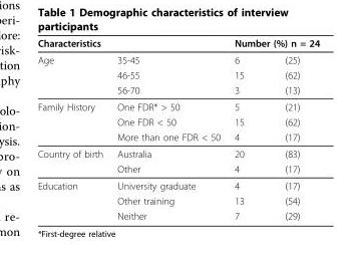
<table><thead><tr><td colspan="2">Characteristics</td><td colspan="2">Number (%) n = 24</td></tr><tr><td>Age</td><td>35-45</td><td>6</td><td>(25)</td></tr></thead><tbody><tr><td></td><td>46-55</td><td>15</td><td>(62)</td></tr><tr><td></td><td>56-70</td><td>3</td><td>(13)</td></tr><tr><td rowspan="3">Family History</td><td>One FDR* &gt; 50</td><td>5</td><td>(21)</td></tr><tr><td>One FDR &lt; 50</td><td>15</td><td>(62)</td></tr><tr><td>More than one FDR &lt; 50</td><td>4</td><td>(17)</td></tr><tr><td rowspan="2">Country of birth</td><td>Australia</td><td>20</td><td>(83)</td></tr><tr><td>Other</td><td>4</td><td>(17)</td></tr><tr><td rowspan="3">Education</td><td>University graduate</td><td>4</td><td>(17)</td></tr><tr><td>Other training</td><td>13</td><td>(54)</td></tr><tr><td>Neither</td><td>7</td><td>(29)</td></tr></tbody></table>